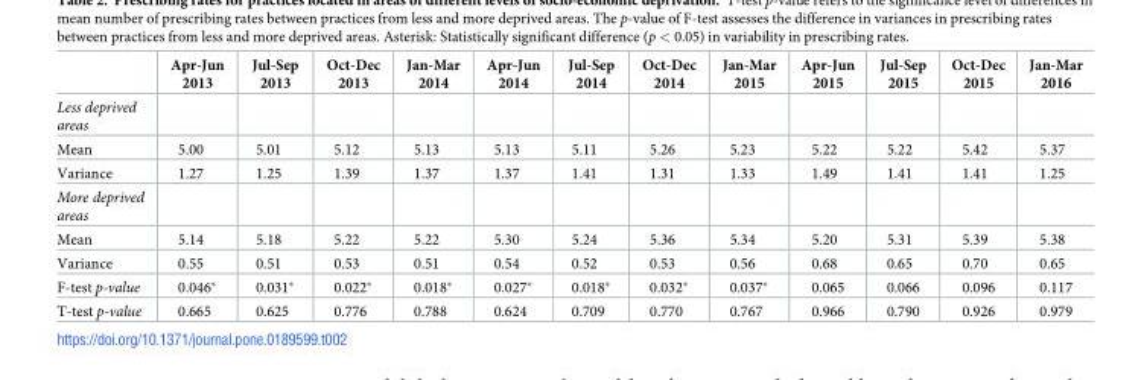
<table><thead><tr><td></td><td>Apr-Jun 2013</td><td>Jul-Sep 2013</td><td>Oct-Dec 2013</td><td>Jan-Mar 2014</td><td>Apr-Jun 2014</td><td>Jul-Sep 2014</td><td>Oct-Dec 2014</td><td>Jan-Mar 2015</td><td>Apr-Jun 2015</td><td>Jul-Sep 2015</td><td>Oct-Dec 2015</td><td>Jan-Mar 2016</td></tr></thead><tbody><tr><td colspan="13">Less deprived areas</td></tr><tr><td>Mean</td><td>5.00</td><td>5.01</td><td>5.12</td><td>5.13</td><td>5.13</td><td>5.11</td><td>5.26</td><td>5.23</td><td>5.22</td><td>5.22</td><td>5.42</td><td>5.37</td></tr><tr><td>Variance</td><td>1.27</td><td>1.25</td><td>1.39</td><td>1.37</td><td>1.37</td><td>1.41</td><td>1.31</td><td>1.33</td><td>1.49</td><td>1.41</td><td>1.41</td><td>1.25</td></tr><tr><td colspan="13">More deprived areas</td></tr><tr><td>Mean</td><td>5.14</td><td>5.18</td><td>5.22</td><td>5.22</td><td>5.30</td><td>5.24</td><td>5.36</td><td>5.34</td><td>5.20</td><td>5.31</td><td>5.39</td><td>5.38</td></tr><tr><td>Variance</td><td>0.55</td><td>0.51</td><td>0.53</td><td>0.51</td><td>0.54</td><td>0.52</td><td>0.53</td><td>0.56</td><td>0.68</td><td>0.65</td><td>0.70</td><td>0.65</td></tr><tr><td>F-test p-value</td><td>0.046*</td><td>0.031*</td><td>0.022*</td><td>0.018*</td><td>0.027*</td><td>0.018*</td><td>0.032*</td><td>0.037*</td><td>0.065</td><td>0.066</td><td>0.096</td><td>0.117</td></tr><tr><td>T-test p-value</td><td>0.665</td><td>0.625</td><td>0.776</td><td>0.788</td><td>0.624</td><td>0.709</td><td>0.770</td><td>0.767</td><td>0.966</td><td>0.790</td><td>0.926</td><td>0.979</td></tr></tbody></table>